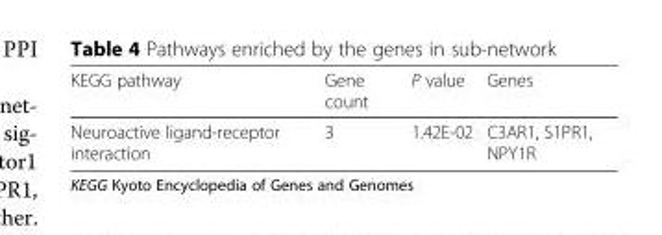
<table><thead><tr><td>KEGG pathway</td><td>Gene count</td><td>P value</td><td>Genes</td></tr></thead><tbody><tr><td>Neuroactive ligand-receptor interaction</td><td>3</td><td>1.42E-02</td><td>C3AR1, S1PR1, NPY1R</td></tr></tbody></table>